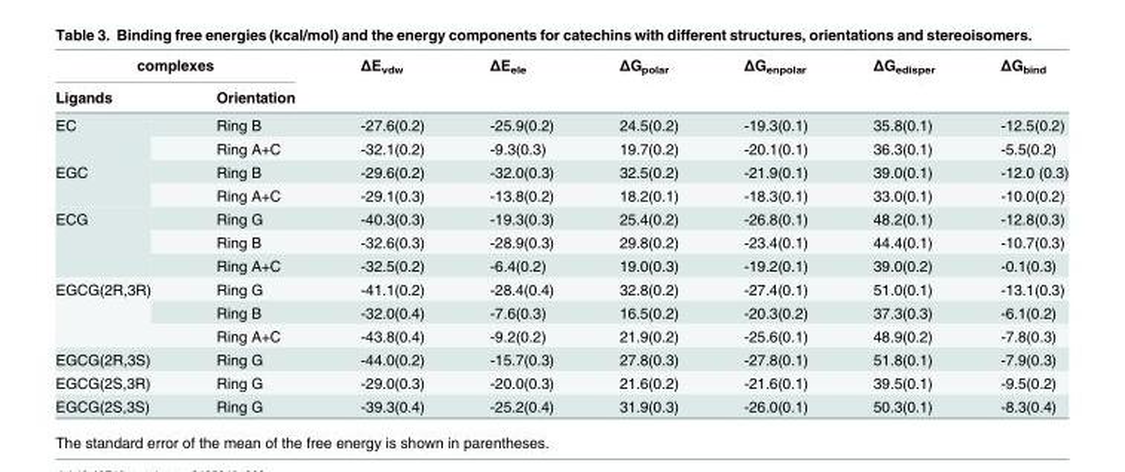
<table><thead><tr><td colspan="2">complexes</td><td rowspan="2">ΔE<sub>vdw</sub></td><td rowspan="2">ΔE<sub>ele</sub></td><td rowspan="2">ΔG<sub>polar</sub></td><td rowspan="2">ΔG<sub>enpolar</sub></td><td rowspan="2">ΔG<sub>edisper</sub></td><td rowspan="2">ΔG<sub>bind</sub></td></tr><tr><td>Ligands</td><td>Orientation</td></tr></thead><tbody><tr><td rowspan="2">EC</td><td>Ring B</td><td>-27.6(0.2)</td><td>-25.9(0.2)</td><td>24.5(0.2)</td><td>-19.3(0.1)</td><td>35.8(0.1)</td><td>-12.5(0.2)</td></tr><tr><td>Ring A+C</td><td>-32.1(0.2)</td><td>-9.3(0.3)</td><td>19.7(0.2)</td><td>-20.1(0.1)</td><td>36.3(0.1)</td><td>-5.5(0.2)</td></tr><tr><td rowspan="2">EGC</td><td>Ring B</td><td>-29.6(0.2)</td><td>-32.0(0.3)</td><td>32.5(0.2)</td><td>-21.9(0.1)</td><td>39.0(0.1)</td><td>-12.0 (0.3)</td></tr><tr><td>Ring A+C</td><td>-29.1(0.3)</td><td>-13.8(0.2)</td><td>18.2(0.1)</td><td>-18.3(0.1)</td><td>33.0(0.1)</td><td>-10.0(0.2)</td></tr><tr><td rowspan="3">ECG</td><td>Ring G</td><td>-40.3(0.3)</td><td>-19.3(0.3)</td><td>25.4(0.2)</td><td>-26.8(0.1)</td><td>48.2(0.1)</td><td>-12.8(0.3)</td></tr><tr><td>Ring B</td><td>-32.6(0.3)</td><td>-28.9(0.3)</td><td>29.8(0.2)</td><td>-23.4(0.1)</td><td>44.4(0.1)</td><td>-10.7(0.3)</td></tr><tr><td>Ring A+C</td><td>-32.5(0.2)</td><td>-6.4(0.2)</td><td>19.0(0.3)</td><td>-19.2(0.1)</td><td>39.0(0.2)</td><td>-0.1(0.3)</td></tr><tr><td rowspan="3">EGCG(2R,3R)</td><td>Ring G</td><td>-41.1(0.2)</td><td>-28.4(0.4)</td><td>32.8(0.2)</td><td>-27.4(0.1)</td><td>51.0(0.1)</td><td>-13.1(0.3)</td></tr><tr><td>Ring B</td><td>-32.0(0.4)</td><td>-7.6(0.3)</td><td>16.5(0.2)</td><td>-20.3(0.2)</td><td>37.3(0.3)</td><td>-6.1(0.2)</td></tr><tr><td>Ring A+C</td><td>-43.8(0.4)</td><td>-9.2(0.2)</td><td>21.9(0.2)</td><td>-25.6(0.1)</td><td>48.9(0.2)</td><td>-7.8(0.3)</td></tr><tr><td>EGCG(2R,3S)</td><td>Ring G</td><td>-44.0(0.2)</td><td>-15.7(0.3)</td><td>27.8(0.3)</td><td>-27.8(0.1)</td><td>51.8(0.1)</td><td>-7.9(0.3)</td></tr><tr><td>EGCG(2S,3R)</td><td>Ring G</td><td>-29.0(0.3)</td><td>-20.0(0.3)</td><td>21.6(0.2)</td><td>-21.6(0.1)</td><td>39.5(0.1)</td><td>-9.5(0.2)</td></tr><tr><td>EGCG(2S,3S)</td><td>Ring G</td><td>-39.3(0.4)</td><td>-25.2(0.4)</td><td>31.9(0.3)</td><td>-26.0(0.1)</td><td>50.3(0.1)</td><td>-8.3(0.4)</td></tr></tbody></table>